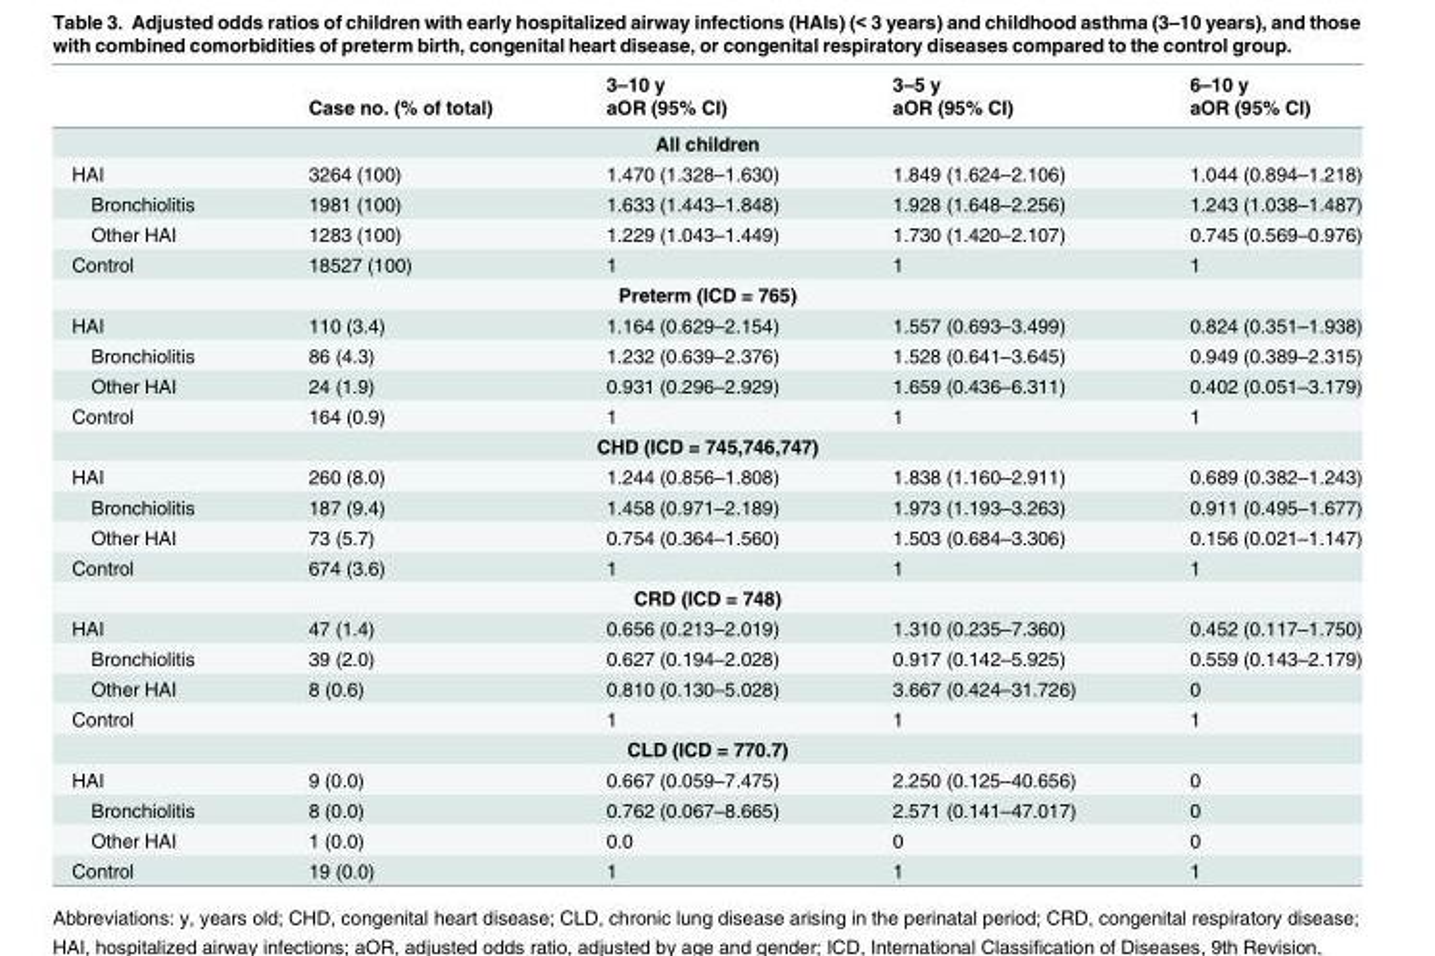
<table><thead><tr><td rowspan="2"></td><td rowspan="2">Case no. (% of total)</td><td rowspan="2">3–10 y aOR (95% CI)</td><td rowspan="2">3–5 y aOR (95% CI)</td><td rowspan="2">6–10 y aOR (95% CI)</td></tr><tr></tr></thead><tbody><tr><td colspan="5">All children</td></tr><tr><td>HAI</td><td>3264 (100)</td><td>1.470 (1.328–1.630)</td><td>1.849 (1.624–2.106)</td><td>1.044 (0.894–1.218)</td></tr><tr><td>Bronchiolitis</td><td>1981 (100)</td><td>1.633 (1.443–1.848)</td><td>1.928 (1.648–2.256)</td><td>1.243 (1.038–1.487)</td></tr><tr><td>Other HAI</td><td>1283 (100)</td><td>1.229 (1.043–1.449)</td><td>1.730 (1.420–2.107)</td><td>0.745 (0.569–0.976)</td></tr><tr><td>Control</td><td>18527 (100)</td><td>1</td><td>1</td><td>1</td></tr><tr><td colspan="5">Preterm (ICD = 765)</td></tr><tr><td>HAI</td><td>110 (3.4)</td><td>1.164 (0.629–2.154)</td><td>1.557 (0.693–3.499)</td><td>0.824 (0.351–1.938)</td></tr><tr><td>Bronchiolitis</td><td>86 (4.3)</td><td>1.232 (0.639–2.376)</td><td>1.528 (0.641–3.645)</td><td>0.949 (0.389–2.315)</td></tr><tr><td>Other HAI</td><td>24 (1.9)</td><td>0.931 (0.296–2.929)</td><td>1.659 (0.436–6.311)</td><td>0.402 (0.051–3.179)</td></tr><tr><td>Control</td><td>164 (0.9)</td><td>1</td><td>1</td><td>1</td></tr><tr><td colspan="5">CHD (ICD = 745,746,747)</td></tr><tr><td>HAI</td><td>260 (8.0)</td><td>1.244 (0.856–1.808)</td><td>1.838 (1.160–2.911)</td><td>0.689 (0.382–1.243)</td></tr><tr><td>Bronchiolitis</td><td>187 (9.4)</td><td>1.458 (0.971–2.189)</td><td>1.973 (1.193–3.263)</td><td>0.911 (0.495–1.677)</td></tr><tr><td>Other HAI</td><td>73 (5.7)</td><td>0.754 (0.364–1.560)</td><td>1.503 (0.684–3.306)</td><td>0.156 (0.021–1.147)</td></tr><tr><td>Control</td><td>674 (3.6)</td><td>1</td><td>1</td><td>1</td></tr><tr><td colspan="5">CRD (ICD = 748)</td></tr><tr><td>HAI</td><td>47 (1.4)</td><td>0.656 (0.213–2.019)</td><td>1.310 (0.235–7.360)</td><td>0.452 (0.117–1.750)</td></tr><tr><td>Bronchiolitis</td><td>39 (2.0)</td><td>0.627 (0.194–2.028)</td><td>0.917 (0.142–5.925)</td><td>0.559 (0.143–2.179)</td></tr><tr><td>Other HAI</td><td>8 (0.6)</td><td>0.810 (0.130–5.028)</td><td>3.667 (0.424–31.726)</td><td>0</td></tr><tr><td>Control</td><td></td><td>1</td><td>1</td><td>1</td></tr><tr><td colspan="5">CLD (ICD = 770.7)</td></tr><tr><td>HAI</td><td>9 (0.0)</td><td>0.667 (0.059–7.475)</td><td>2.250 (0.125–40.656)</td><td>0</td></tr><tr><td>Bronchiolitis</td><td>8 (0.0)</td><td>0.762 (0.067–8.665)</td><td>2.571 (0.141–47.017)</td><td>0</td></tr><tr><td>Other HAI</td><td>1 (0.0)</td><td>0.0</td><td>0</td><td>0</td></tr><tr><td>Control</td><td>19 (0.0)</td><td>1</td><td>1</td><td>1</td></tr></tbody></table>